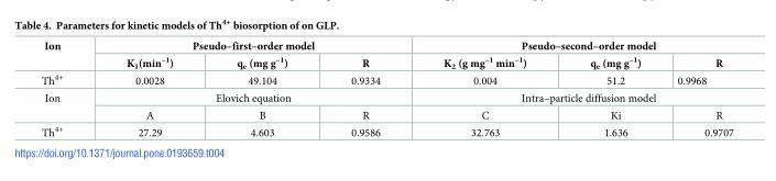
<table><thead><tr><td rowspan="2">Ion</td><td colspan="3">Pseudo–first–order model</td><td colspan="3">Pseudo–second–order model</td></tr><tr><td>K<sub>1</sub>(min<sup>–1</sup>)</td><td>q<sub>e</sub> (mg g<sup>–1</sup>)</td><td>R</td><td>K<sub>2</sub> (g mg<sup>–1</sup> min<sup>–1</sup>)</td><td>q<sub>e</sub> (mg g<sup>–1</sup>)</td><td>R</td></tr></thead><tbody><tr><td>Th<sup>4+</sup></td><td>0.0028</td><td>49.104</td><td>0.9334</td><td>0.004</td><td>51.2</td><td>0.9968</td></tr><tr><td rowspan="2">Ion</td><td colspan="3">Elovich equation</td><td colspan="3">Intra–particle diffusion model</td></tr><tr><td>A</td><td>B</td><td>R</td><td>C</td><td>Ki</td><td>R</td></tr><tr><td>Th<sup>4+</sup></td><td>27.29</td><td>4.603</td><td>0.9586</td><td>32.763</td><td>1.636</td><td>0.9707</td></tr></tbody></table>